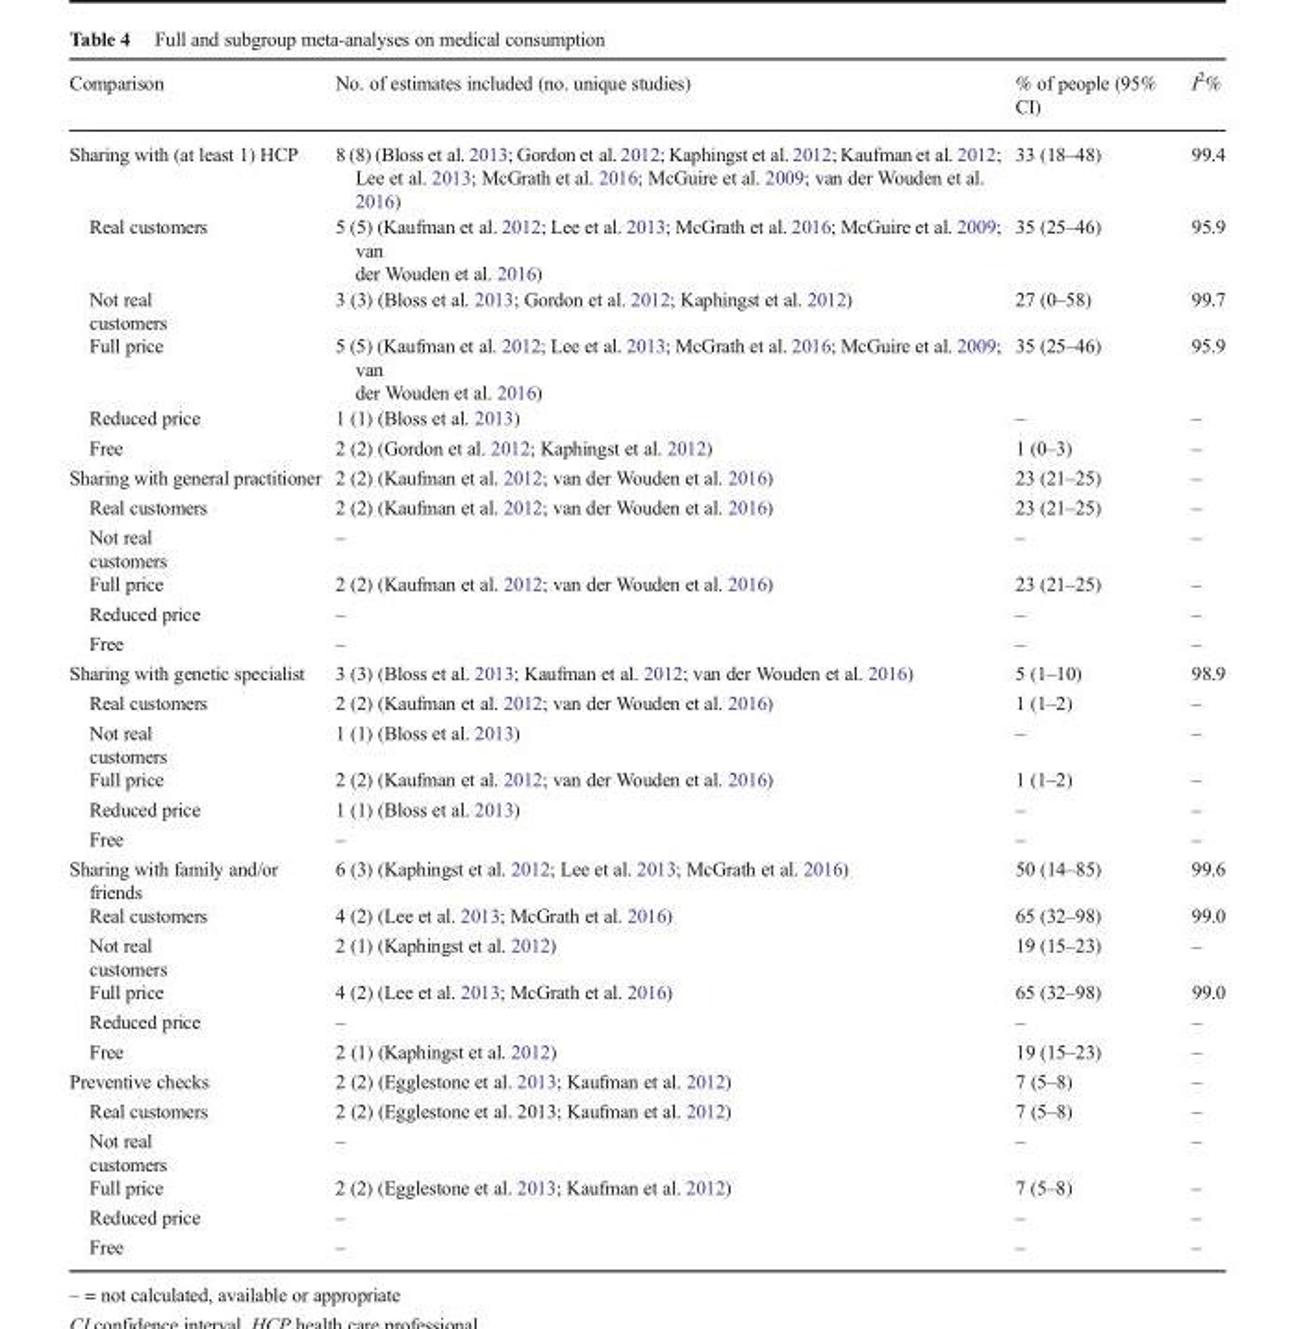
<table><thead><tr><td>Comparison</td><td>No. of estimates included (no. unique studies)</td><td>% of people (95% CI)</td><td>I<sup>2</sup>%</td></tr></thead><tbody><tr><td>Sharing with (at least 1) HCP</td><td>8 (8) (Bloss et al. 2013; Gordon et al. 2012; Kaphingst et al. 2012; Kaufman et al. 2012; Lee et al. 2013; McGrath et al. 2016; McGuire et al. 2009; van der Wouden et al. 2016)</td><td>33 (18–48)</td><td>99.4</td></tr><tr><td>Real customers</td><td>5 (5) (Kaufman et al. 2012; Lee et al. 2013; McGrath et al. 2016; McGuire et al. 2009; van der Wouden et al. 2016)</td><td>35 (25–46)</td><td>95.9</td></tr><tr><td>Not real customers</td><td>3 (3) (Bloss et al. 2013; Gordon et al. 2012; Kaphingst et al. 2012)</td><td>27 (0–58)</td><td>99.7</td></tr><tr><td>Full price</td><td>5 (5) (Kaufman et al. 2012; Lee et al. 2013; McGrath et al. 2016; McGuire et al. 2009; van der Wouden et al. 2016)</td><td>35 (25–46)</td><td>95.9</td></tr><tr><td>Reduced price</td><td>1 (1) (Bloss et al. 2013)</td><td>–</td><td>–</td></tr><tr><td>Free</td><td>2 (2) (Gordon et al. 2012; Kaphingst et al. 2012)</td><td>1 (0–3)</td><td>–</td></tr><tr><td>Sharing with general practitioner</td><td>2 (2) (Kaufman et al. 2012; van der Wouden et al. 2016)</td><td>23 (21–25)</td><td>–</td></tr><tr><td>Real customers</td><td>2 (2) (Kaufman et al. 2012; van der Wouden et al. 2016)</td><td>23 (21–25)</td><td>–</td></tr><tr><td>Not real customers</td><td>–</td><td>–</td><td>–</td></tr><tr><td>Full price</td><td>2 (2) (Kaufman et al. 2012; van der Wouden et al. 2016)</td><td>23 (21–25)</td><td>–</td></tr><tr><td>Reduced price</td><td>–</td><td>–</td><td>–</td></tr><tr><td>Free</td><td>–</td><td>–</td><td>–</td></tr><tr><td>Sharing with genetic specialist</td><td>3 (3) (Bloss et al. 2013; Kaufman et al. 2012; van der Wouden et al. 2016)</td><td>5 (1–10)</td><td>98.9</td></tr><tr><td>Real customers</td><td>2 (2) (Kaufman et al. 2012; van der Wouden et al. 2016)</td><td>1 (1–2)</td><td>–</td></tr><tr><td>Not real customers</td><td>1 (1) (Bloss et al. 2013)</td><td>–</td><td>–</td></tr><tr><td>Full price</td><td>2 (2) (Kaufman et al. 2012; van der Wouden et al. 2016)</td><td>1 (1–2)</td><td>–</td></tr><tr><td>Reduced price</td><td>1 (1) (Bloss et al. 2013)</td><td>–</td><td>–</td></tr><tr><td>Free</td><td>–</td><td>–</td><td>–</td></tr><tr><td>Sharing with family and/or friends</td><td>6 (3) (Kaphingst et al. 2012; Lee et al. 2013; McGrath et al. 2016)</td><td>50 (14–85)</td><td>99.6</td></tr><tr><td>Real customers</td><td>4 (2) (Lee et al. 2013; McGrath et al. 2016)</td><td>65 (32–98)</td><td>99.0</td></tr><tr><td>Not real customers</td><td>2 (1) (Kaphingst et al. 2012)</td><td>19 (15–23)</td><td>–</td></tr><tr><td>Full price</td><td>4 (2) (Lee et al. 2013; McGrath et al. 2016)</td><td>65 (32–98)</td><td>99.0</td></tr><tr><td>Reduced price</td><td>–</td><td>–</td><td>–</td></tr><tr><td>Free</td><td>2 (1) (Kaphingst et al. 2012)</td><td>19 (15–23)</td><td>–</td></tr><tr><td>Preventive checks</td><td>2 (2) (Egglestone et al. 2013; Kaufman et al. 2012)</td><td>7 (5–8)</td><td>–</td></tr><tr><td>Real customers</td><td>2 (2) (Egglestone et al. 2013; Kaufman et al. 2012)</td><td>7 (5–8)</td><td>–</td></tr><tr><td>Not real customers</td><td>–</td><td>–</td><td>–</td></tr><tr><td>Full price</td><td>2 (2) (Egglestone et al. 2013; Kaufman et al. 2012)</td><td>7 (5–8)</td><td>–</td></tr><tr><td>Reduced price</td><td>–</td><td>–</td><td>–</td></tr><tr><td>Free</td><td>–</td><td>–</td><td>–</td></tr></tbody></table>